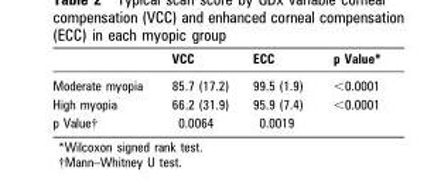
<table><thead><tr><td></td><td>VCC</td><td>ECC</td><td>p Value*</td></tr></thead><tbody><tr><td>Moderate myopia</td><td>85.7 (17.2)</td><td>99.5 (1.9)</td><td>&lt;0.0001</td></tr><tr><td>High myopia</td><td>66.2 (31.9)</td><td>95.9 (7.4)</td><td>&lt;0.0001</td></tr><tr><td>p Value†</td><td>0.0064</td><td>0.0019</td><td></td></tr></tbody></table>